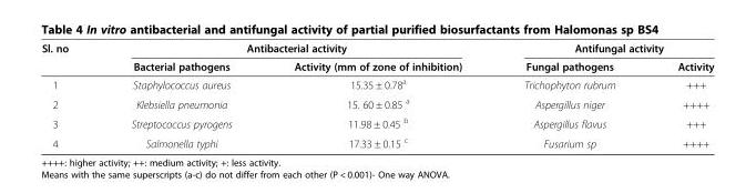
<table><thead><tr><td rowspan="2">Sl. no</td><td colspan="2">Antibacterial activity</td><td colspan="2">Antifungal activity</td></tr><tr><td>Bacterial pathogens</td><td>Activity (mm of zone of inhibition)</td><td>Fungal pathogens</td><td>Activity</td></tr></thead><tbody><tr><td>1</td><td>Staphylococcus aureus</td><td>15.35 ± 0.78<sup>a</sup></td><td>Trichophyton rubrum</td><td>+++</td></tr><tr><td>2</td><td>Klebsiella pneumonia</td><td>15. 60 ± 0.85 <sup>a</sup></td><td>Aspergillus niger</td><td>++++</td></tr><tr><td>3</td><td>Streptococcus pyrogens</td><td>11.98 ± 0.45 <sup>b</sup></td><td>Aspergillus flavus</td><td>+++</td></tr><tr><td>4</td><td>Salmonella typhi</td><td>17.33 ± 0.15 <sup>c</sup></td><td>Fusarium sp</td><td>++++</td></tr></tbody></table>